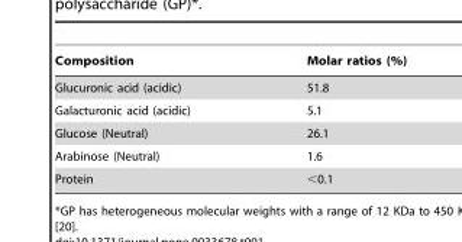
<table><thead><tr><td>Composition</td><td>Molar ratios (%)</td></tr></thead><tbody><tr><td>Glucuronic acid (acidic)</td><td>51.8</td></tr><tr><td>Galacturonic acid (acidic)</td><td>5.1</td></tr><tr><td>Glucose (Neutral)</td><td>26.1</td></tr><tr><td>Arabinose (Neutral)</td><td>1.6</td></tr><tr><td>Protein</td><td>&lt;0.1</td></tr></tbody></table>